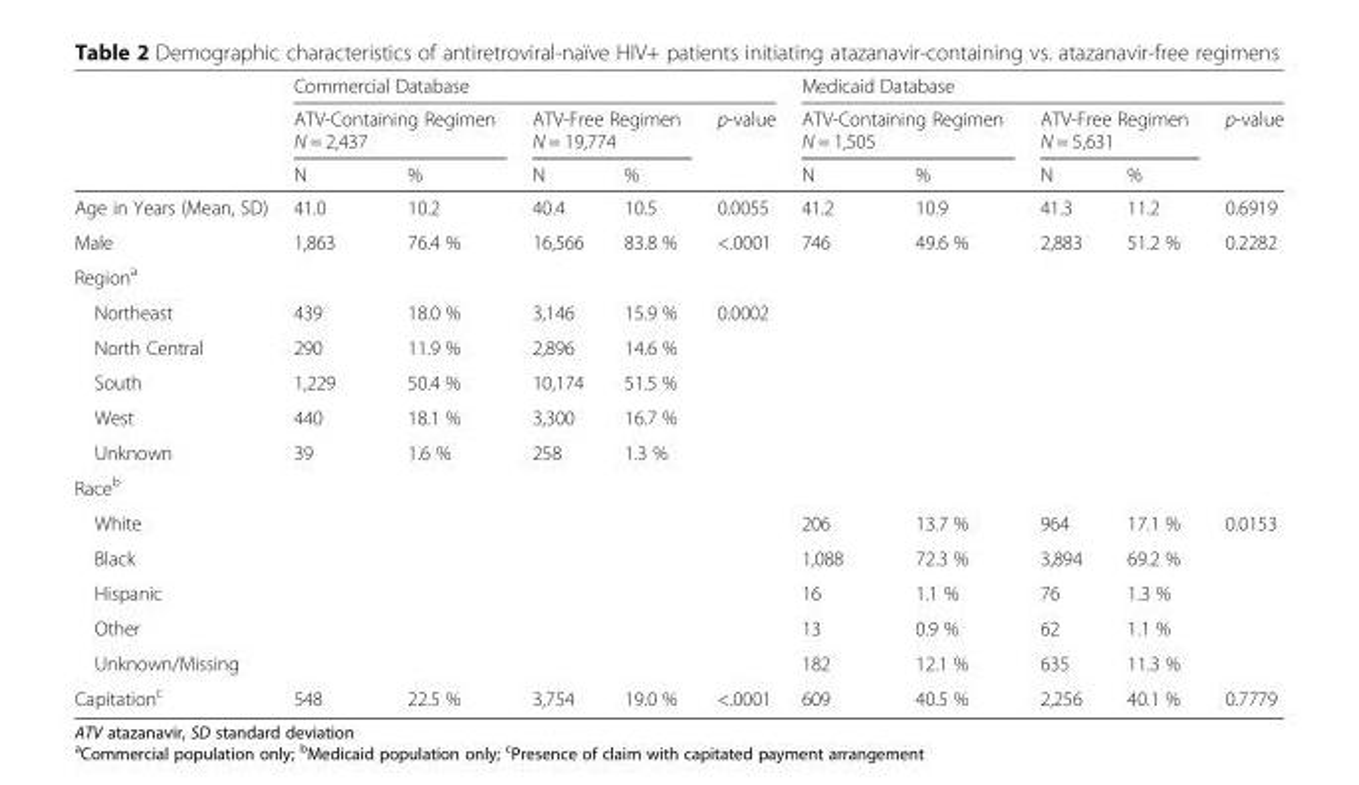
<table><thead><tr><td rowspan="3"></td><td colspan="5">Commercial Database</td><td colspan="5">Medicaid Database</td></tr><tr><td colspan="2">ATV-Containing Regimen N = 2,437</td><td colspan="2">ATV-Free Regimen N = 19,774</td><td rowspan="2">p-value</td><td colspan="2">ATV-Containing Regimen N = 1,505</td><td colspan="2">ATV-Free Regimen N = 5,631</td><td rowspan="2">p-value</td></tr><tr><td>N</td><td>%</td><td>N</td><td>%</td><td>N</td><td>%</td><td>N</td><td>%</td></tr></thead><tbody><tr><td>Age in Years (Mean, SD)</td><td>41.0</td><td>10.2</td><td>40.4</td><td>10.5</td><td>0.0055</td><td>41.2</td><td>10.9</td><td>41.3</td><td>11.2</td><td>0.6919</td></tr><tr><td>Male</td><td>1,863</td><td>76.4 %</td><td>16,566</td><td>83.8 %</td><td>&lt;.0001</td><td>746</td><td>49.6 %</td><td>2,883</td><td>51.2 %</td><td>0.2282</td></tr><tr><td colspan="11">Region<sup>a</sup></td></tr><tr><td>Northeast</td><td>439</td><td>18.0 %</td><td>3,146</td><td>15.9 %</td><td>0.0002</td><td></td><td></td><td></td><td></td><td></td></tr><tr><td>North Central</td><td>290</td><td>11.9 %</td><td>2,896</td><td>14.6 %</td><td></td><td></td><td></td><td></td><td></td><td></td></tr><tr><td>South</td><td>1,229</td><td>50.4 %</td><td>10,174</td><td>51.5 %</td><td></td><td></td><td></td><td></td><td></td><td></td></tr><tr><td>West</td><td>440</td><td>18.1 %</td><td>3,300</td><td>16.7 %</td><td></td><td></td><td></td><td></td><td></td><td></td></tr><tr><td>Unknown</td><td>39</td><td>1.6 %</td><td>258</td><td>1.3 %</td><td></td><td></td><td></td><td></td><td></td><td></td></tr><tr><td colspan="11">Race<sup>b</sup></td></tr><tr><td>White</td><td></td><td></td><td></td><td></td><td></td><td>206</td><td>13.7 %</td><td>964</td><td>17.1 %</td><td>0.0153</td></tr><tr><td>Black</td><td></td><td></td><td></td><td></td><td></td><td>1,088</td><td>72.3 %</td><td>3,894</td><td>69.2 %</td><td></td></tr><tr><td>Hispanic</td><td></td><td></td><td></td><td></td><td></td><td>16</td><td>1.1 %</td><td>76</td><td>1.3 %</td><td></td></tr><tr><td>Other</td><td></td><td></td><td></td><td></td><td></td><td>13</td><td>0.9 %</td><td>62</td><td>1.1 %</td><td></td></tr><tr><td>Unknown/Missing</td><td></td><td></td><td></td><td></td><td></td><td>182</td><td>12.1 %</td><td>635</td><td>11.3 %</td><td></td></tr><tr><td>Capitation<sup>c</sup></td><td>548</td><td>22.5 %</td><td>3,754</td><td>19.0 %</td><td>&lt;.0001</td><td>609</td><td>40.5 %</td><td>2,256</td><td>40.1 %</td><td>0.7779</td></tr></tbody></table>